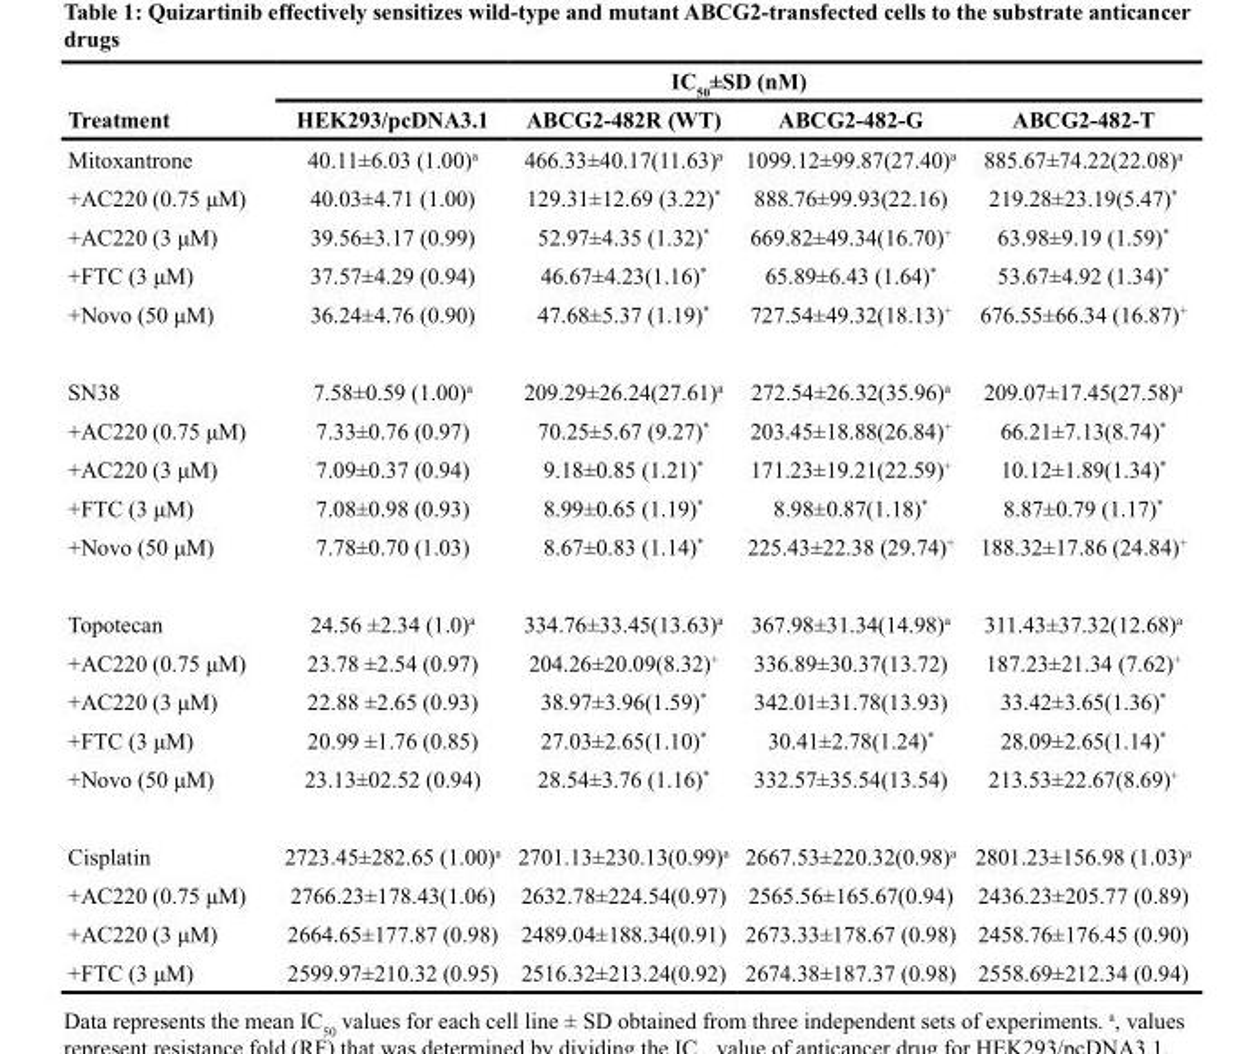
<table><thead><tr><td rowspan="2">Treatment</td><td colspan="4">IC<sub>50</sub>±SD (nM)</td></tr><tr><td>HEK293/pcDNA3.1</td><td>ABCG2-482R (WT)</td><td>ABCG2-482-G</td><td>ABCG2-482-T</td></tr></thead><tbody><tr><td>Mitoxantrone</td><td>40.11±6.03 (1.00)<sup>a</sup></td><td>466.33±40.17(11.63)<sup>a</sup></td><td>1099.12±99.87(27.40)<sup>a</sup></td><td>885.67±74.22(22.08)<sup>a</sup></td></tr><tr><td>+AC220 (0.75 μM)</td><td>40.03±4.71 (1.00)</td><td>129.31±12.69 (3.22)*</td><td>888.76±99.93(22.16)</td><td>219.28±23.19(5.47)*</td></tr><tr><td>+AC220 (3 μM)</td><td>39.56±3.17 (0.99)</td><td>52.97±4.35 (1.32)*</td><td>669.82±49.34(16.70)<sup>+</sup></td><td>63.98±9.19 (1.59)*</td></tr><tr><td>+FTC (3 μM)</td><td>37.57±4.29 (0.94)</td><td>46.67±4.23(1.16)*</td><td>65.89±6.43 (1.64)*</td><td>53.67±4.92 (1.34)*</td></tr><tr><td>+Novo (50 μM)</td><td>36.24±4.76 (0.90)</td><td>47.68±5.37 (1.19)*</td><td>727.54±49.32(18.13)<sup>+</sup></td><td>676.55±66.34 (16.87)<sup>+</sup></td></tr><tr><td>SN38</td><td>7.58±0.59 (1.00)<sup>a</sup></td><td>209.29±26.24(27.61)<sup>a</sup></td><td>272.54±26.32(35.96)<sup>a</sup></td><td>209.07±17.45(27.58)<sup>a</sup></td></tr><tr><td>+AC220 (0.75 μM)</td><td>7.33±0.76 (0.97)</td><td>70.25±5.67 (9.27)*</td><td>203.45±18.88(26.84)<sup>+</sup></td><td>66.21±7.13(8.74)*</td></tr><tr><td>+AC220 (3 μM)</td><td>7.09±0.37 (0.94)</td><td>9.18±0.85 (1.21)*</td><td>171.23±19.21(22.59)<sup>+</sup></td><td>10.12±1.89(1.34)*</td></tr><tr><td>+FTC (3 μM)</td><td>7.08±0.98 (0.93)</td><td>8.99±0.65 (1.19)*</td><td>8.98±0.87(1.18)*</td><td>8.87±0.79 (1.17)*</td></tr><tr><td>+Novo (50 μM)</td><td>7.78±0.70 (1.03)</td><td>8.67±0.83 (1.14)*</td><td>225.43±22.38 (29.74)<sup>+</sup></td><td>188.32±17.86 (24.84)<sup>+</sup></td></tr><tr><td>Topotecan</td><td>24.56 ±2.34 (1.0)<sup>a</sup></td><td>334.76±33.45(13.63)<sup>a</sup></td><td>367.98±31.34(14.98)<sup>a</sup></td><td>311.43±37.32(12.68)<sup>a</sup></td></tr><tr><td>+AC220 (0.75 μM)</td><td>23.78 ±2.54 (0.97)</td><td>204.26±20.09(8.32)<sup>+</sup></td><td>336.89±30.37(13.72)</td><td>187.23±21.34 (7.62)<sup>+</sup></td></tr><tr><td>+AC220 (3 μM)</td><td>22.88 ±2.65 (0.93)</td><td>38.97±3.96(1.59)*</td><td>342.01±31.78(13.93)</td><td>33.42±3.65(1.36)*</td></tr><tr><td>+FTC (3 μM)</td><td>20.99 ±1.76 (0.85)</td><td>27.03±2.65(1.10)*</td><td>30.41±2.78(1.24)*</td><td>28.09±2.65(1.14)*</td></tr><tr><td>+Novo (50 μM)</td><td>23.13±02.52 (0.94)</td><td>28.54±3.76 (1.16)*</td><td>332.57±35.54(13.54)</td><td>213.53±22.67(8.69)<sup>+</sup></td></tr><tr><td>Cisplatin</td><td>2723.45±282.65 (1.00)<sup>a</sup></td><td>2701.13±230.13(0.99)<sup>a</sup></td><td>2667.53±220.32(0.98)<sup>a</sup></td><td>2801.23±156.98 (1.03)<sup>a</sup></td></tr><tr><td>+AC220 (0.75 μM)</td><td>2766.23±178.43(1.06)</td><td>2632.78±224.54(0.97)</td><td>2565.56±165.67(0.94)</td><td>2436.23±205.77 (0.89)</td></tr><tr><td>+AC220 (3 μM)</td><td>2664.65±177.87 (0.98)</td><td>2489.04±188.34(0.91)</td><td>2673.33±178.67 (0.98)</td><td>2458.76±176.45 (0.90)</td></tr><tr><td>+FTC (3 μM)</td><td>2599.97±210.32 (0.95)</td><td>2516.32±213.24(0.92)</td><td>2674.38±187.37 (0.98)</td><td>2558.69±212.34 (0.94)</td></tr></tbody></table>